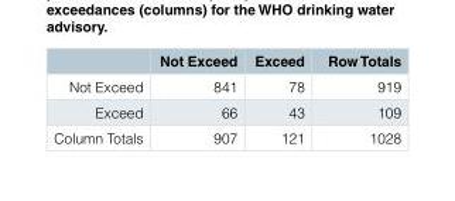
<table><thead><tr><td></td><td>Not Exceed</td><td>Exceed</td><td>Row Totals</td></tr></thead><tbody><tr><td>Not Exceed</td><td>841</td><td>78</td><td>919</td></tr><tr><td>Exceed</td><td>66</td><td>43</td><td>109</td></tr><tr><td>Column Totals</td><td>907</td><td>121</td><td>1028</td></tr></tbody></table>